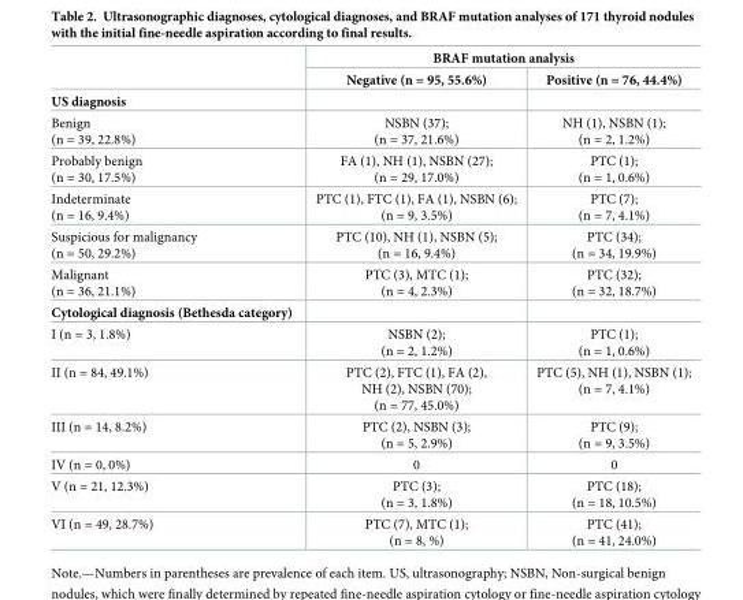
<table><thead><tr><td rowspan="2"></td><td colspan="2">BRAF mutation analysis</td></tr><tr><td>Negative (n = 95, 55.6%)</td><td>Positive (n = 76, 44.4%)</td></tr></thead><tbody><tr><td colspan="3">US diagnosis</td></tr><tr><td>Benign (n = 39, 22.8%)</td><td>NSBN (37); (n = 37, 21.6%)</td><td>NH (1), NSBN (1); (n = 2, 1.2%)</td></tr><tr><td>Probably benign (n = 30, 17.5%)</td><td>FA (1), NH (1), NSBN (27); (n = 29, 17.0%)</td><td>PTC (1); (n = 1, 0.6%)</td></tr><tr><td>Indeterminate (n = 16, 9.4%)</td><td>PTC (1), FTC (1), FA (1), NSBN (6); (n = 9, 3.5%)</td><td>PTC (7); (n = 7, 4.1%)</td></tr><tr><td>Suspicious for malignancy (n = 50, 29.2%)</td><td>PTC (10), NH (1), NSBN (5); (n = 16, 9.4%)</td><td>PTC (34); (n = 34, 19.9%)</td></tr><tr><td>Malignant (n = 36, 21.1%)</td><td>PTC (3), MTC (1); (n = 4, 2.3%)</td><td>PTC (32); (n = 32, 18.7%)</td></tr><tr><td colspan="3">Cytological diagnosis (Bethesda category)</td></tr><tr><td>I (n = 3, 1.8%)</td><td>NSBN (2); (n = 2, 1.2%)</td><td>PTC (1); (n = 1, 0.6%)</td></tr><tr><td>II (n = 84, 49.1%)</td><td>PTC (2), FTC (1), FA (2), NH (2), NSBN (70); (n = 77, 45.0%)</td><td>PTC (5), NH (1), NSBN (1); (n = 7, 4.1%)</td></tr><tr><td>III (n = 14, 8.2%)</td><td>PTC (2), NSBN (3); (n = 5, 2.9%)</td><td>PTC (9); (n = 9, 3.5%)</td></tr><tr><td>IV (n = 0, 0%)</td><td>0</td><td>0</td></tr><tr><td>V (n = 21, 12.3%)</td><td>PTC (3); (n = 3, 1.8%)</td><td>PTC (18); (n = 18, 10.5%)</td></tr><tr><td>VI (n = 49, 28.7%)</td><td>PTC (7), MTC (1); (n = 8, %)</td><td>PTC (41); (n = 41, 24.0%)</td></tr></tbody></table>